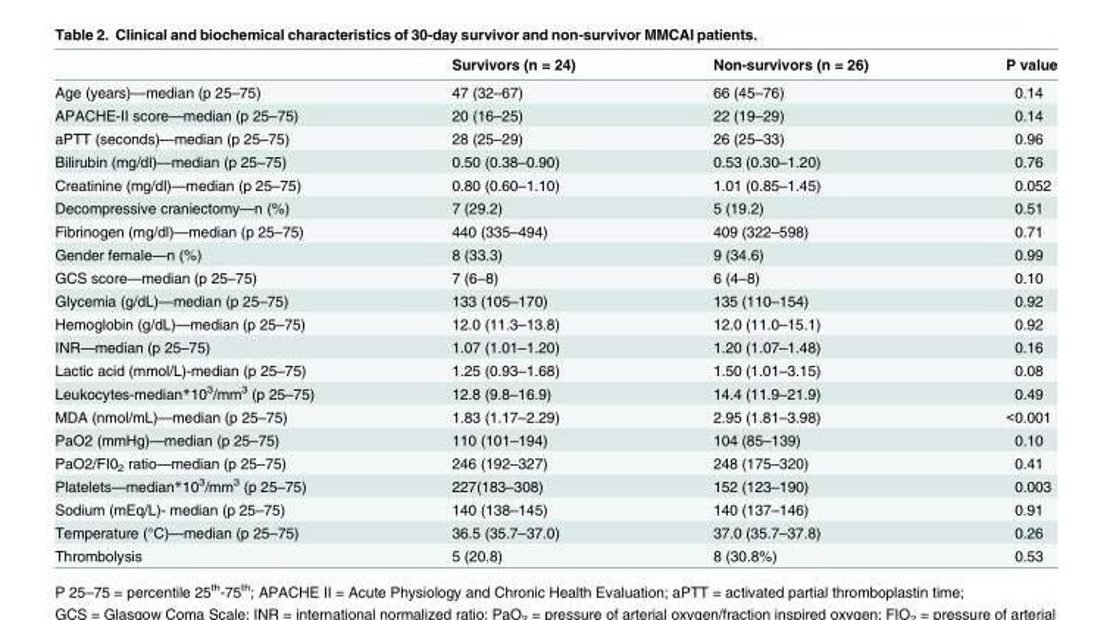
<table><thead><tr><td></td><td>Survivors (n = 24)</td><td>Non-survivors (n = 26)</td><td>P value</td></tr></thead><tbody><tr><td>Age (years)—median (p 25–75)</td><td>47 (32–67)</td><td>66 (45–76)</td><td>0.14</td></tr><tr><td>APACHE-II score—median (p 25–75)</td><td>20 (16–25)</td><td>22 (19–29)</td><td>0.14</td></tr><tr><td>aPTT (seconds)—median (p 25–75)</td><td>28 (25–29)</td><td>26 (25–33)</td><td>0.96</td></tr><tr><td>Bilirubin (mg/dl)—median (p 25–75)</td><td>0.50 (0.38–0.90)</td><td>0.53 (0.30–1.20)</td><td>0.76</td></tr><tr><td>Creatinine (mg/dl)—median (p 25–75)</td><td>0.80 (0.60–1.10)</td><td>1.01 (0.85–1.45)</td><td>0.052</td></tr><tr><td>Decompressive craniectomy—n (%)</td><td>7 (29.2)</td><td>5 (19.2)</td><td>0.51</td></tr><tr><td>Fibrinogen (mg/dl)—median (p 25–75)</td><td>440 (335–494)</td><td>409 (322–598)</td><td>0.71</td></tr><tr><td>Gender female—n (%)</td><td>8 (33.3)</td><td>9 (34.6)</td><td>0.99</td></tr><tr><td>GCS score—median (p 25–75)</td><td>7 (6–8)</td><td>6 (4–8)</td><td>0.10</td></tr><tr><td>Glycemia (g/dL)—median (p 25–75)</td><td>133 (105–170)</td><td>135 (110–154)</td><td>0.92</td></tr><tr><td>Hemoglobin (g/dL)—median (p 25–75)</td><td>12.0 (11.3–13.8)</td><td>12.0 (11.0–15.1)</td><td>0.92</td></tr><tr><td>INR—median (p 25–75)</td><td>1.07 (1.01–1.20)</td><td>1.20 (1.07–1.48)</td><td>0.16</td></tr><tr><td>Lactic acid (mmol/L)-median (p 25–75)</td><td>1.25 (0.93–1.68)</td><td>1.50 (1.01–3.15)</td><td>0.08</td></tr><tr><td>Leukocytes-median*10<sup>3</sup>/mm<sup>3</sup> (p 25–75)</td><td>12.8 (9.8–16.9)</td><td>14.4 (11.9–21.9)</td><td>0.49</td></tr><tr><td>MDA (nmol/mL)—median (p 25–75)</td><td>1.83 (1.17–2.29)</td><td>2.95 (1.81–3.98)</td><td>&lt;0.001</td></tr><tr><td>PaO2 (mmHg)—median (p 25–75)</td><td>110 (101–194)</td><td>104 (85–139)</td><td>0.10</td></tr><tr><td>PaO2/FI0<sub>2</sub> ratio—median (p 25–75)</td><td>246 (192–327)</td><td>248 (175–320)</td><td>0.41</td></tr><tr><td>Platelets—median*10<sup>3</sup>/mm<sup>3</sup> (p 25–75)</td><td>227(183–308)</td><td>152 (123–190)</td><td>0.003</td></tr><tr><td>Sodium (mEq/L)- median (p 25–75)</td><td>140 (138–145)</td><td>140 (137–146)</td><td>0.91</td></tr><tr><td>Temperature (°C)—median (p 25–75)</td><td>36.5 (35.7–37.0)</td><td>37.0 (35.7–37.8)</td><td>0.26</td></tr><tr><td>Thrombolysis</td><td>5 (20.8)</td><td>8 (30.8%)</td><td>0.53</td></tr></tbody></table>